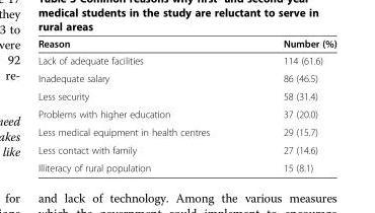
<table><thead><tr><td>Reason</td><td>Number (%)</td></tr></thead><tbody><tr><td>Lack of adequate facilities</td><td>114 (61.6)</td></tr><tr><td>Inadequate salary</td><td>86 (46.5)</td></tr><tr><td>Less security</td><td>58 (31.4)</td></tr><tr><td>Problems with higher education</td><td>37 (20.0)</td></tr><tr><td>Less medical equipment in health centres</td><td>29 (15.7)</td></tr><tr><td>Less contact with family</td><td>27 (14.6)</td></tr><tr><td>Illiteracy of rural population</td><td>15 (8.1)</td></tr></tbody></table>